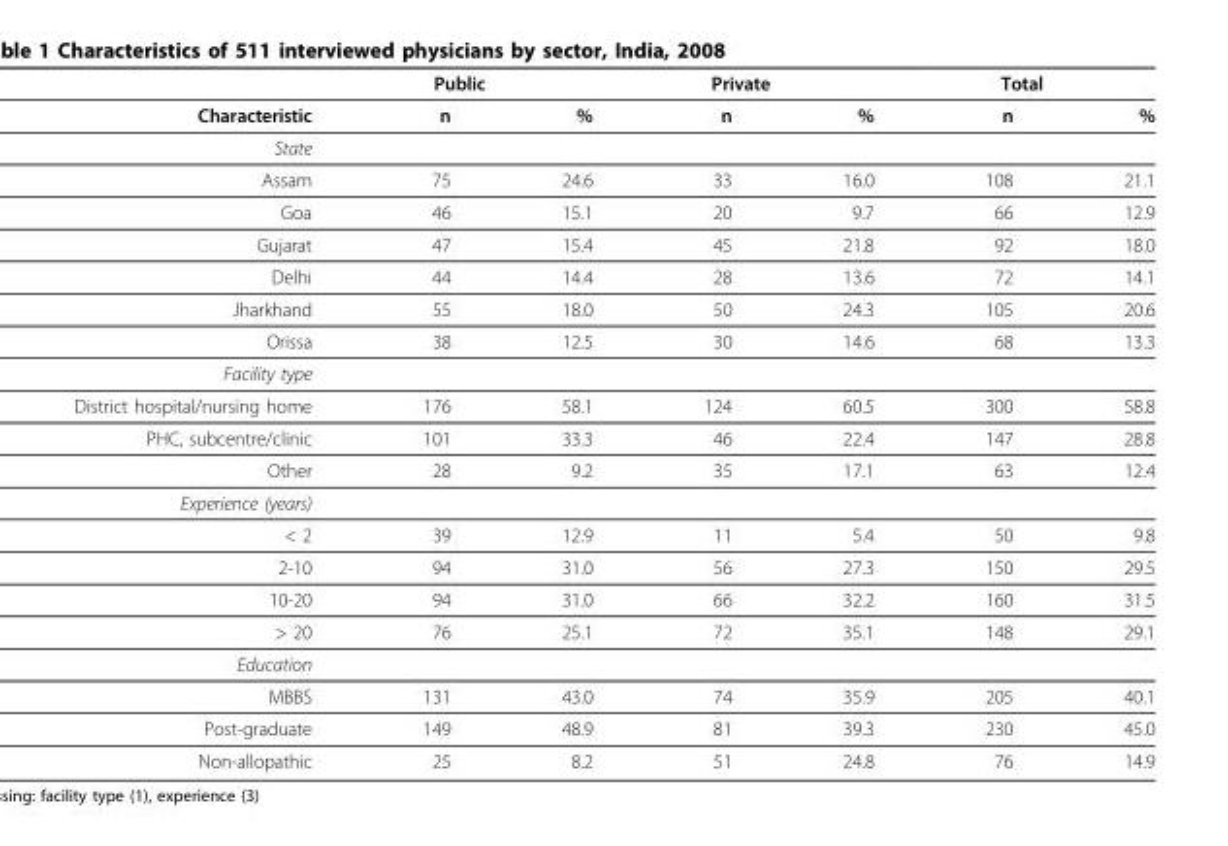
<table><thead><tr><td rowspan="2">Characteristic</td><td colspan="2">Public</td><td colspan="2">Private</td><td colspan="2">Total</td></tr><tr><td>n</td><td>%</td><td>n</td><td>%</td><td>n</td><td>%</td></tr></thead><tbody><tr><td colspan="7">State</td></tr><tr><td>Assam</td><td>75</td><td>24.6</td><td>33</td><td>16.0</td><td>108</td><td>21.1</td></tr><tr><td>Goa</td><td>46</td><td>15.1</td><td>20</td><td>9.7</td><td>66</td><td>12.9</td></tr><tr><td>Gujarat</td><td>47</td><td>15.4</td><td>45</td><td>21.8</td><td>92</td><td>18.0</td></tr><tr><td>Delhi</td><td>44</td><td>14.4</td><td>28</td><td>13.6</td><td>72</td><td>14.1</td></tr><tr><td>Jharkhand</td><td>55</td><td>18.0</td><td>50</td><td>24.3</td><td>105</td><td>20.6</td></tr><tr><td>Orissa</td><td>38</td><td>12.5</td><td>30</td><td>14.6</td><td>68</td><td>13.3</td></tr><tr><td colspan="7">Facility type</td></tr><tr><td>District hospital/nursing home</td><td>176</td><td>58.1</td><td>124</td><td>60.5</td><td>300</td><td>58.8</td></tr><tr><td>PHC, subcentre/clinic</td><td>101</td><td>33.3</td><td>46</td><td>22.4</td><td>147</td><td>28.8</td></tr><tr><td>Other</td><td>28</td><td>9.2</td><td>35</td><td>17.1</td><td>63</td><td>12.4</td></tr><tr><td colspan="7">Experience (years)</td></tr><tr><td>&lt; 2</td><td>39</td><td>12.9</td><td>11</td><td>5.4</td><td>50</td><td>9.8</td></tr><tr><td>2-10</td><td>94</td><td>31.0</td><td>56</td><td>27.3</td><td>150</td><td>29.5</td></tr><tr><td>10-20</td><td>94</td><td>31.0</td><td>66</td><td>32.2</td><td>160</td><td>31.5</td></tr><tr><td>&gt; 20</td><td>76</td><td>25.1</td><td>72</td><td>35.1</td><td>148</td><td>29.1</td></tr><tr><td colspan="7">Education</td></tr><tr><td>MBBS</td><td>131</td><td>43.0</td><td>74</td><td>35.9</td><td>205</td><td>40.1</td></tr><tr><td>Post-graduate</td><td>149</td><td>48.9</td><td>81</td><td>39.3</td><td>230</td><td>45.0</td></tr><tr><td>Non-allopathic</td><td>25</td><td>8.2</td><td>51</td><td>24.8</td><td>76</td><td>14.9</td></tr></tbody></table>